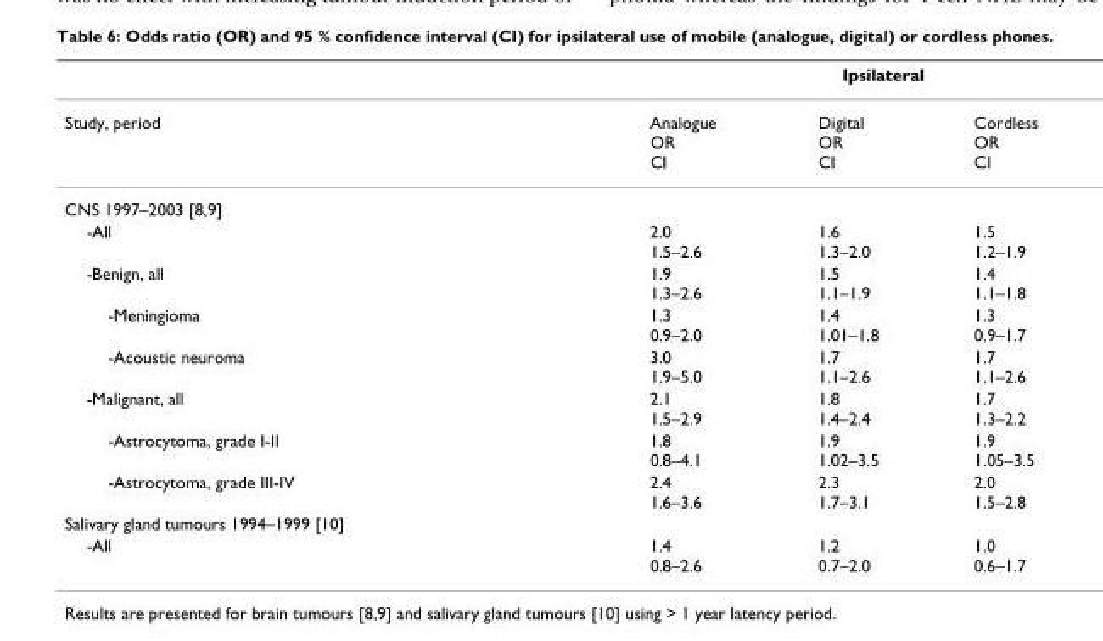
<table><thead><tr><td rowspan="2">Study, period</td><td colspan="3">Ipsilateral</td></tr><tr><td>Analogue OR CI</td><td>Digital OR CI</td><td>Cordless OR CI</td></tr></thead><tbody><tr><td colspan="4">CNS 1997–2003 [8,9]</td></tr><tr><td>-All</td><td>2.0 1.5–2.6</td><td>1.6 1.3–2.0</td><td>1.5 1.2–1.9</td></tr><tr><td>-Benign, all</td><td>1.9 1.3–2.6</td><td>1.5 1.1–1.9</td><td>1.4 1.1–1.8</td></tr><tr><td>-Meningioma</td><td>1.3 0.9–2.0</td><td>1.4 1.01–1.8</td><td>1.3 0.9–1.7</td></tr><tr><td>-Acoustic neuroma</td><td>3.0 1.9–5.0</td><td>1.7 1.1–2.6</td><td>1.7 1.1–2.6</td></tr><tr><td>-Malignant, all</td><td>2.1 1.5–2.9</td><td>1.8 1.4–2.4</td><td>1.7 1.3–2.2</td></tr><tr><td>-Astrocytoma, grade I-II</td><td>1.8 0.8–4.1</td><td>1.9 1.02–3.5</td><td>1.9 1.05–3.5</td></tr><tr><td>-Astrocytoma, grade III-IV</td><td>2.4 1.6–3.6</td><td>2.3 1.7–3.1</td><td>2.0 1.5–2.8</td></tr><tr><td colspan="4">Salivary gland tumours 1994–1999 [10]</td></tr><tr><td>-All</td><td>1.4 0.8–2.6</td><td>1.2 0.7–2.0</td><td>1.0 0.6–1.7</td></tr></tbody></table>